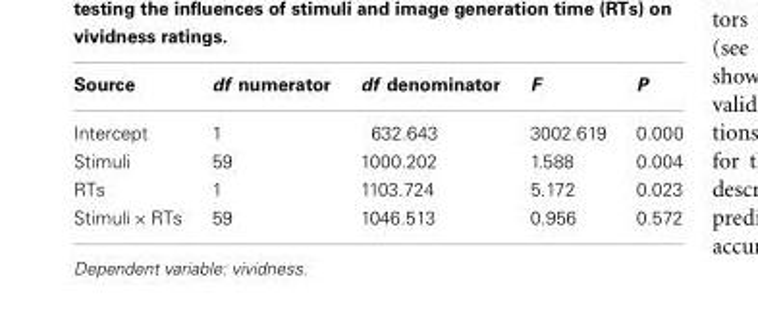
<table><thead><tr><td>Source</td><td>df numerator</td><td>df denominator</td><td>F</td><td>P</td></tr></thead><tbody><tr><td>Intercept</td><td>1</td><td>632.643</td><td>3002.619</td><td>0.000</td></tr><tr><td>Stimuli</td><td>59</td><td>1000.202</td><td>1.588</td><td>0.004</td></tr><tr><td>RTs</td><td>1</td><td>1103.724</td><td>5.172</td><td>0.023</td></tr><tr><td>Stimuli × RTs</td><td>59</td><td>1046.513</td><td>0.956</td><td>0.572</td></tr></tbody></table>